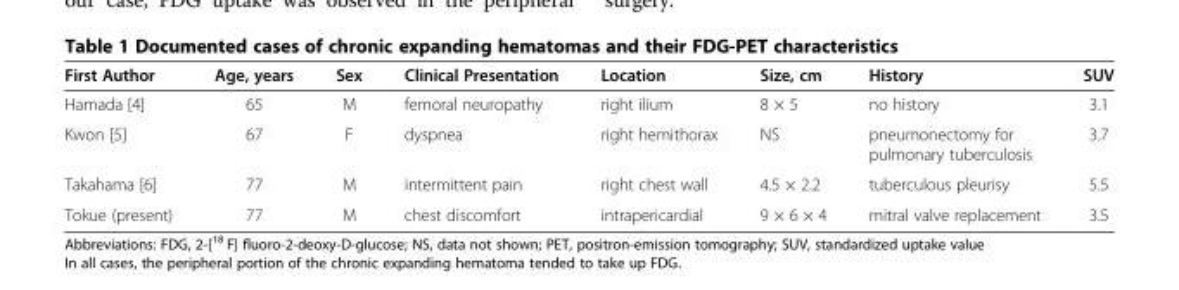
<table><thead><tr><td>First Author</td><td>Age, years</td><td>Sex</td><td>Clinical Presentation</td><td>Location</td><td>Size, cm</td><td>History</td><td>SUV</td></tr></thead><tbody><tr><td>Hamada [4]</td><td>65</td><td>M</td><td>femoral neuropathy</td><td>right ilium</td><td>8 × 5</td><td>no history</td><td>3.1</td></tr><tr><td>Kwon [5]</td><td>67</td><td>F</td><td>dyspnea</td><td>right hemithorax</td><td>NS</td><td>pneumonectomy for pulmonary tuberculosis</td><td>3.7</td></tr><tr><td>Takahama [6]</td><td>77</td><td>M</td><td>intermittent pain</td><td>right chest wall</td><td>4.5 × 2.2</td><td>tuberculous pleurisy</td><td>5.5</td></tr><tr><td>Tokue (present)</td><td>77</td><td>M</td><td>chest discomfort</td><td>intrapericardial</td><td>9 × 6 × 4</td><td>mitral valve replacement</td><td>3.5</td></tr></tbody></table>